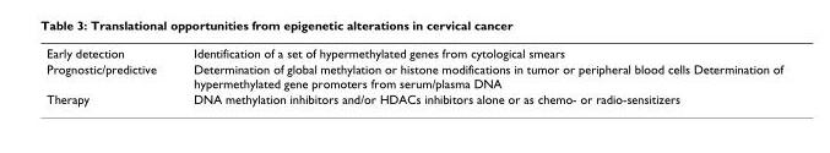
<table><tbody><tr><td>Early detection</td><td>Identification of a set of hypermethylated genes from cytological smears</td></tr><tr><td>Prognostic/predictive</td><td>Determination of global methylation or histone modifications in tumor or peripheral blood cells Determination of hypermethylated gene promoters from serum/plasma DNA</td></tr><tr><td>Therapy</td><td>DNA methylation inhibitors and/or HDACs inhibitors alone or as chemo- or radio-sensitizers</td></tr></tbody></table>